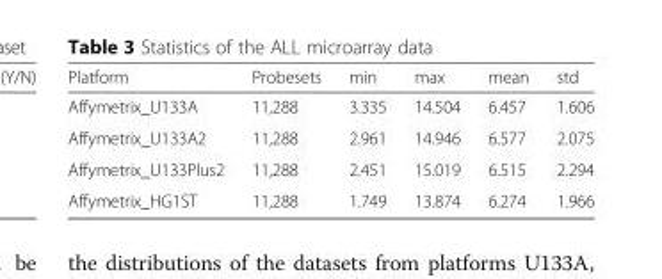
<table><thead><tr><td>Platform</td><td>Probesets</td><td>min</td><td>max</td><td>mean</td><td>std</td></tr></thead><tbody><tr><td>Affymetrix_U133A</td><td>11,288</td><td>3.335</td><td>14.504</td><td>6.457</td><td>1.606</td></tr><tr><td>Affymetrix_U133A2</td><td>11,288</td><td>2.961</td><td>14.946</td><td>6.577</td><td>2.075</td></tr><tr><td>Affymetrix_U133Plus2</td><td>11,288</td><td>2.451</td><td>15.019</td><td>6.515</td><td>2.294</td></tr><tr><td>Affymetrix_HG1ST</td><td>11,288</td><td>1.749</td><td>13.874</td><td>6.274</td><td>1.966</td></tr></tbody></table>